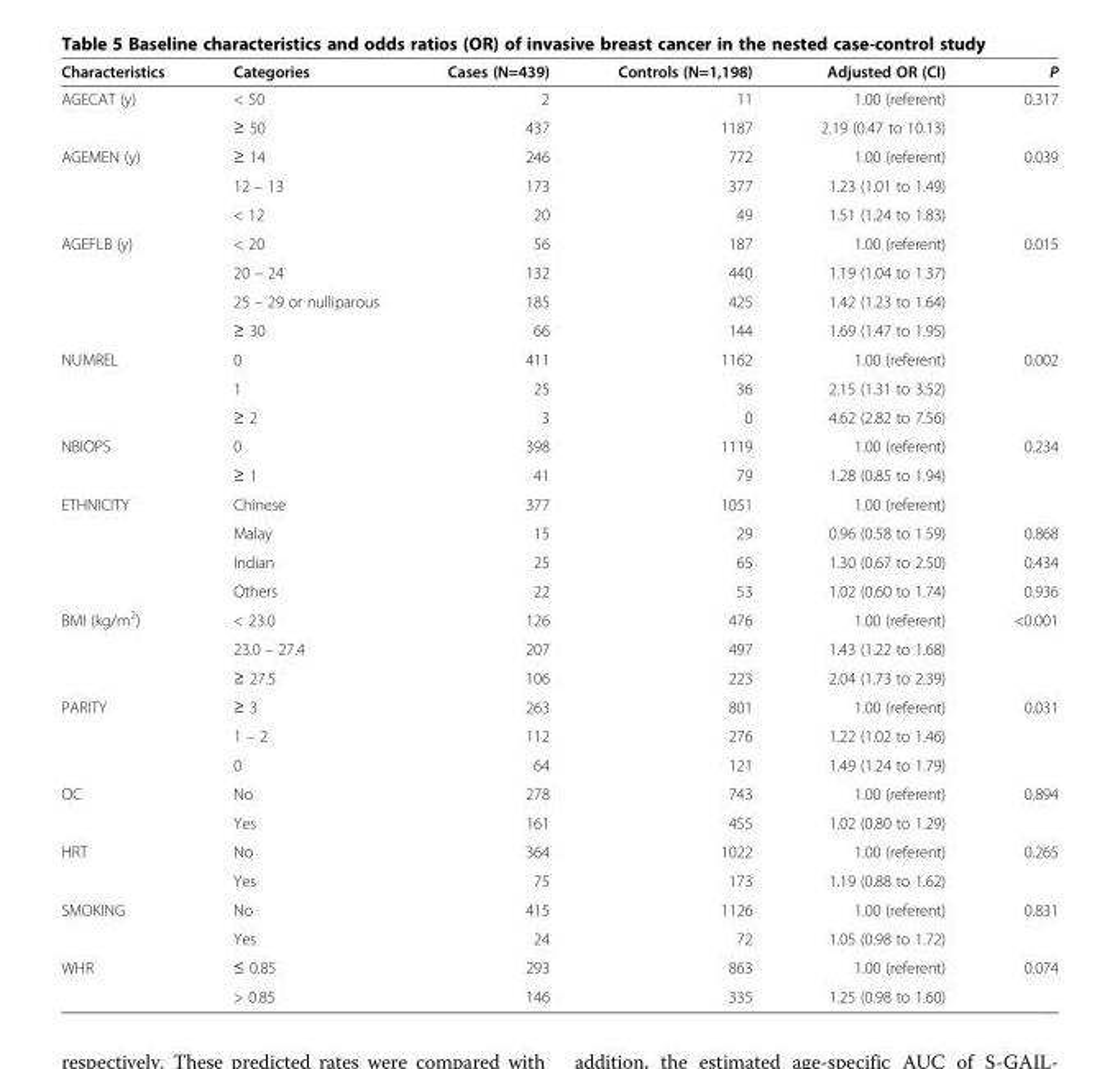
<table><thead><tr><td>Characteristics</td><td>Categories</td><td>Cases (N=439)</td><td>Controls (N=1,198)</td><td>Adjusted OR (CI)</td><td>P</td></tr></thead><tbody><tr><td rowspan="2">AGECAT (y)</td><td>&lt; 50</td><td>2</td><td>11</td><td>1.00 (referent)</td><td>0.317</td></tr><tr><td>≥ 50</td><td>437</td><td>1187</td><td>2.19 (0.47 to 10.13)</td><td></td></tr><tr><td rowspan="3">AGEMEN (y)</td><td>≥ 14</td><td>246</td><td>772</td><td>1.00 (referent)</td><td>0.039</td></tr><tr><td>12 – 13</td><td>173</td><td>377</td><td>1.23 (1.01 to 1.49)</td><td></td></tr><tr><td>&lt; 12</td><td>20</td><td>49</td><td>1.51 (1.24 to 1.83)</td><td></td></tr><tr><td rowspan="4">AGEFLB (y)</td><td>&lt; 20</td><td>56</td><td>187</td><td>1.00 (referent)</td><td>0.015</td></tr><tr><td>20 – 24</td><td>132</td><td>440</td><td>1.19 (1.04 to 1.37)</td><td></td></tr><tr><td>25 – 29 or nulliparous</td><td>185</td><td>425</td><td>1.42 (1.23 to 1.64)</td><td></td></tr><tr><td>≥ 30</td><td>66</td><td>144</td><td>1.69 (1.47 to 1.95)</td><td></td></tr><tr><td rowspan="3">NUMREL</td><td>0</td><td>411</td><td>1162</td><td>1.00 (referent)</td><td>0.002</td></tr><tr><td>1</td><td>25</td><td>36</td><td>2.15 (1.31 to 3.52)</td><td></td></tr><tr><td>≥ 2</td><td>3</td><td>0</td><td>4.62 (2.82 to 7.56)</td><td></td></tr><tr><td rowspan="2">NBIOPS</td><td>0</td><td>398</td><td>1119</td><td>1.00 (referent)</td><td>0.234</td></tr><tr><td>≥ 1</td><td>41</td><td>79</td><td>1.28 (0.85 to 1.94)</td><td></td></tr><tr><td rowspan="4">ETHNICITY</td><td>Chinese</td><td>377</td><td>1051</td><td>1.00 (referent)</td><td></td></tr><tr><td>Malay</td><td>15</td><td>29</td><td>0.96 (0.58 to 1.59)</td><td>0.868</td></tr><tr><td>Indian</td><td>25</td><td>65</td><td>1.30 (0.67 to 2.50)</td><td>0.434</td></tr><tr><td>Others</td><td>22</td><td>53</td><td>1.02 (0.60 to 1.74)</td><td>0.936</td></tr><tr><td rowspan="3">BMI (kg/m<sup>2</sup>)</td><td>&lt; 23.0</td><td>126</td><td>476</td><td>1.00 (referent)</td><td>&lt;0.001</td></tr><tr><td>23.0 – 27.4</td><td>207</td><td>497</td><td>1.43 (1.22 to 1.68)</td><td></td></tr><tr><td>≥ 27.5</td><td>106</td><td>223</td><td>2.04 (1.73 to 2.39)</td><td></td></tr><tr><td rowspan="3">PARITY</td><td>≥ 3</td><td>263</td><td>801</td><td>1.00 (referent)</td><td>0.031</td></tr><tr><td>1 – 2</td><td>112</td><td>276</td><td>1.22 (1.02 to 1.46)</td><td></td></tr><tr><td>0</td><td>64</td><td>121</td><td>1.49 (1.24 to 1.79)</td><td></td></tr><tr><td rowspan="2">OC</td><td>No</td><td>278</td><td>743</td><td>1.00 (referent)</td><td>0.894</td></tr><tr><td>Yes</td><td>161</td><td>455</td><td>1.02 (0.80 to 1.29)</td><td></td></tr><tr><td rowspan="2">HRT</td><td>No</td><td>364</td><td>1022</td><td>1.00 (referent)</td><td>0.265</td></tr><tr><td>Yes</td><td>75</td><td>173</td><td>1.19 (0.88 to 1.62)</td><td></td></tr><tr><td rowspan="2">SMOKING</td><td>No</td><td>415</td><td>1126</td><td>1.00 (referent)</td><td>0.831</td></tr><tr><td>Yes</td><td>24</td><td>72</td><td>1.05 (0.98 to 1.72)</td><td></td></tr><tr><td rowspan="2">WHR</td><td>≤ 0.85</td><td>293</td><td>863</td><td>1.00 (referent)</td><td>0.074</td></tr><tr><td>&gt; 0.85</td><td>146</td><td>335</td><td>1.25 (0.98 to 1.60)</td><td></td></tr></tbody></table>